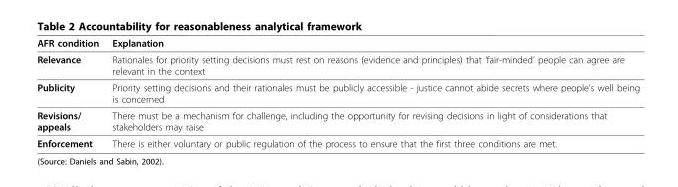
<table><thead><tr><td>AFR condition</td><td>Explanation</td></tr></thead><tbody><tr><td>Relevance</td><td>Rationales for priority setting decisions must rest on reasons (evidence and principles) that ‘fair-minded’ people can agree are relevant in the context</td></tr><tr><td>Publicity</td><td>Priority setting decisions and their rationales must be publicly accessible - justice cannot abide secrets where people’s well being is concerned</td></tr><tr><td>Revisions/ appeals</td><td>There must be a mechanism for challenge, including the opportunity for revising decisions in light of considerations that stakeholders may raise</td></tr><tr><td>Enforcement</td><td>There is either voluntary or public regulation of the process to ensure that the first three conditions are met.</td></tr></tbody></table>